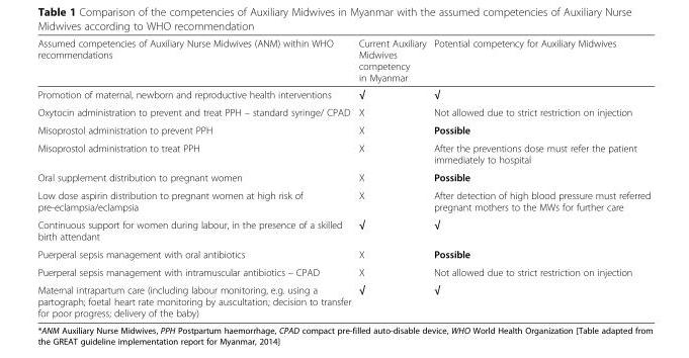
<table><thead><tr><td>Assumed competencies of Auxiliary Nurse Midwives (ANM) within WHO recommendations</td><td>Current Auxiliary Midwives competency in Myanmar</td><td>Potential competency for Auxiliary Midwives</td></tr></thead><tbody><tr><td>Promotion of maternal, newborn and reproductive health interventions</td><td>√</td><td>√</td></tr><tr><td>Oxytocin administration to prevent and treat PPH – standard syringe/ CPAD</td><td>Χ</td><td>Not allowed due to strict restriction on injection</td></tr><tr><td>Misoprostol administration to prevent PPH</td><td>Χ</td><td>Possible</td></tr><tr><td>Misoprostol administration to treat PPH</td><td>Χ</td><td>After the preventions dose must refer the patient immediately to hospital</td></tr><tr><td>Oral supplement distribution to pregnant women</td><td>Χ</td><td>Possible</td></tr><tr><td>Low dose aspirin distribution to pregnant women at high risk of pre-eclampsia/eclampsia</td><td>Χ</td><td>After detection of high blood pressure must referred pregnant mothers to the MWs for further care</td></tr><tr><td>Continuous support for women during labour, in the presence of a skilled birth attendant</td><td>√</td><td>√</td></tr><tr><td>Puerperal sepsis management with oral antibiotics</td><td>Χ</td><td>Possible</td></tr><tr><td>Puerperal sepsis management with intramuscular antibiotics – CPAD</td><td>Χ</td><td>Not allowed due to strict restriction on injection</td></tr><tr><td>Maternal intrapartum care (including labour monitoring, e.g. using a partograph; foetal heart rate monitoring by auscultation; decision to transfer for poor progress; delivery of the baby)</td><td>√</td><td>√</td></tr></tbody></table>